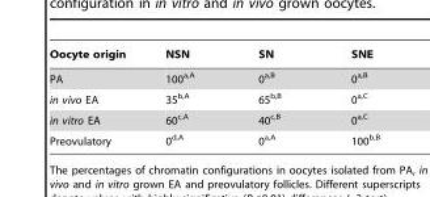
<table><thead><tr><td>Oocyte origin</td><td>NSN</td><td>SN</td><td>SNE</td></tr></thead><tbody><tr><td>PA</td><td>100<sup>a,A</sup></td><td>0<sup>a,B</sup></td><td>0<sup>a,B</sup></td></tr><tr><td>in vivo EA</td><td>35<sup>b,A</sup></td><td>65<sup>b,B</sup></td><td>0<sup>a,C</sup></td></tr><tr><td>in vitro EA</td><td>60<sup>c,A</sup></td><td>40<sup>c,B</sup></td><td>0<sup>a,C</sup></td></tr><tr><td>Preovulatory</td><td>0<sup>d,A</sup></td><td>0<sup>a,A</sup></td><td>100<sup>b,B</sup></td></tr></tbody></table>